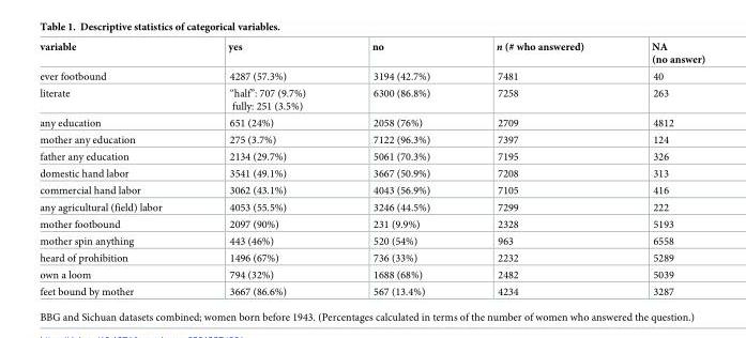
<table><thead><tr><td>variable</td><td>yes</td><td>no</td><td>n (# who answered)</td><td>NA (no answer)</td></tr></thead><tbody><tr><td>ever footbound</td><td>4287 (57.3%)</td><td>3194 (42.7%)</td><td>7481</td><td>40</td></tr><tr><td>literate</td><td>“half”: 707 (9.7%) fully: 251 (3.5%)</td><td>6300 (86.8%)</td><td>7258</td><td>263</td></tr><tr><td>any education</td><td>651 (24%)</td><td>2058 (76%)</td><td>2709</td><td>4812</td></tr><tr><td>mother any education</td><td>275 (3.7%)</td><td>7122 (96.3%)</td><td>7397</td><td>124</td></tr><tr><td>father any education</td><td>2134 (29.7%)</td><td>5061 (70.3%)</td><td>7195</td><td>326</td></tr><tr><td>domestic hand labor</td><td>3541 (49.1%)</td><td>3667 (50.9%)</td><td>7208</td><td>313</td></tr><tr><td>commercial hand labor</td><td>3062 (43.1%)</td><td>4043 (56.9%)</td><td>7105</td><td>416</td></tr><tr><td>any agricultural (field) labor</td><td>4053 (55.5%)</td><td>3246 (44.5%)</td><td>7299</td><td>222</td></tr><tr><td>mother footbound</td><td>2097 (90%)</td><td>231 (9.9%)</td><td>2328</td><td>5193</td></tr><tr><td>mother spin anything</td><td>443 (46%)</td><td>520 (54%)</td><td>963</td><td>6558</td></tr><tr><td>heard of prohibition</td><td>1496 (67%)</td><td>736 (33%)</td><td>2232</td><td>5289</td></tr><tr><td>own a loom</td><td>794 (32%)</td><td>1688 (68%)</td><td>2482</td><td>5039</td></tr><tr><td>feet bound by mother</td><td>3667 (86.6%)</td><td>567 (13.4%)</td><td>4234</td><td>3287</td></tr></tbody></table>